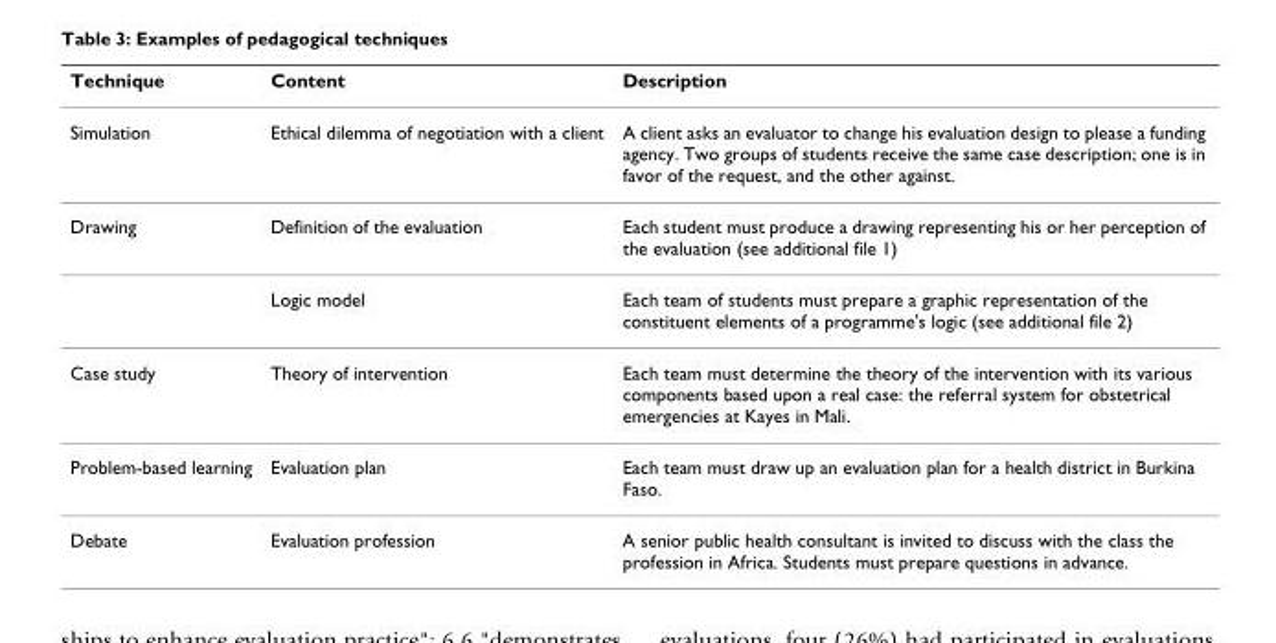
<table><thead><tr><td>Technique</td><td>Content</td><td>Description</td></tr></thead><tbody><tr><td>Simulation</td><td>Ethical dilemma of negotiation with a client</td><td>A client asks an evaluator to change his evaluation design to please a funding agency. Two groups of students receive the same case description; one is in favor of the request, and the other against.</td></tr><tr><td rowspan="2">Drawing</td><td>Definition of the evaluation</td><td>Each student must produce a drawing representing his or her perception of the evaluation (see additional file 1)</td></tr><tr><td>Logic model</td><td>Each team of students must prepare a graphic representation of the constituent elements of a programme&#x27;s logic (see additional file 2)</td></tr><tr><td>Case study</td><td>Theory of intervention</td><td>Each team must determine the theory of the intervention with its various components based upon a real case: the referral system for obstetrical emergencies at Kayes in Mali.</td></tr><tr><td>Problem-based learning</td><td>Evaluation plan</td><td>Each team must draw up an evaluation plan for a health district in Burkina Faso.</td></tr><tr><td>Debate</td><td>Evaluation profession</td><td>A senior public health consultant is invited to discuss with the class the profession in Africa. Students must prepare questions in advance.</td></tr></tbody></table>